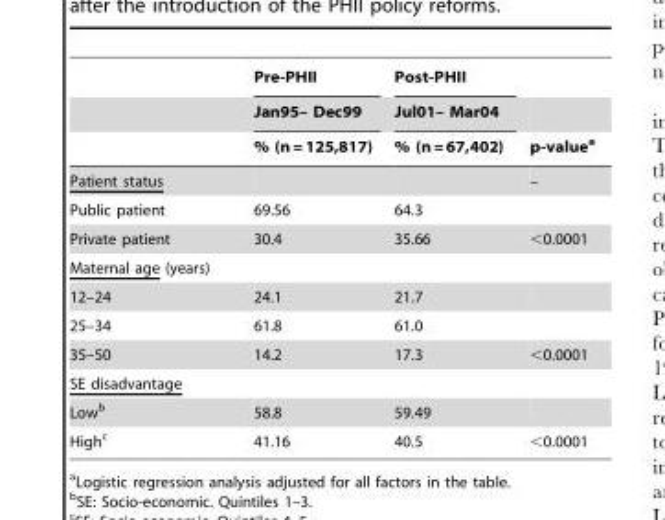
<table><thead><tr><td rowspan="3"></td><td rowspan="3">Pre-PHII Jan95– Dec99 % (n = 125,817)</td><td rowspan="3">Post-PHII Jul01– Mar04 % (n = 67,402)</td><td rowspan="3">p-value<sup>a</sup></td></tr><tr></tr><tr></tr></thead><tbody><tr><td>Patient status</td><td></td><td></td><td>–</td></tr><tr><td>Public patient</td><td>69.56</td><td>64.3</td><td></td></tr><tr><td>Private patient</td><td>30.4</td><td>35.66</td><td>&lt;0.0001</td></tr><tr><td colspan="4">Maternal age (years)</td></tr><tr><td>12–24</td><td>24.1</td><td>21.7</td><td></td></tr><tr><td>25–34</td><td>61.8</td><td>61.0</td><td></td></tr><tr><td>35–50</td><td>14.2</td><td>17.3</td><td>&lt;0.0001</td></tr><tr><td colspan="4">SE disadvantage</td></tr><tr><td>Low<sup>b</sup></td><td>58.8</td><td>59.49</td><td></td></tr><tr><td>High<sup>c</sup></td><td>41.16</td><td>40.5</td><td>&lt;0.0001</td></tr></tbody></table>